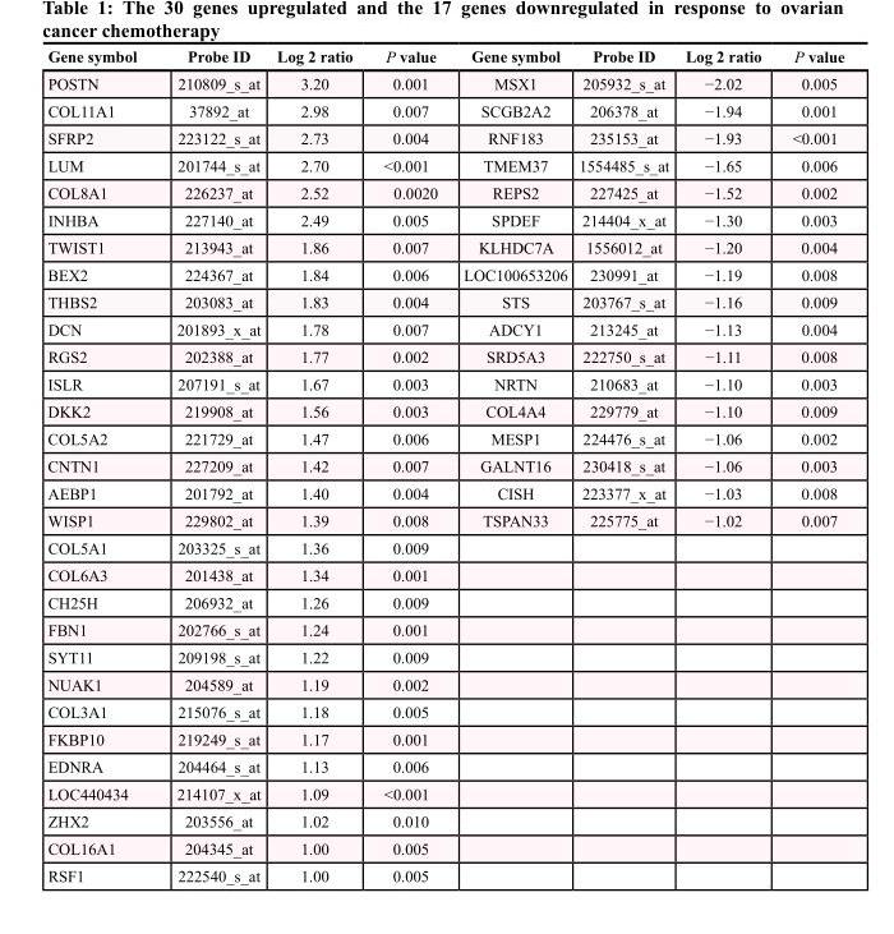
<table><thead><tr><td>Gene symbol</td><td>Probe ID</td><td>Log 2 ratio</td><td>P value</td><td>Gene symbol</td><td>Probe ID</td><td>Log 2 ratio</td><td>P value</td></tr></thead><tbody><tr><td>POSTN</td><td>210809_s_at</td><td>3.20</td><td>0.001</td><td>MSX1</td><td>205932_s_at</td><td>−2.02</td><td>0.005</td></tr><tr><td>COL11A1</td><td>37892_at</td><td>2.98</td><td>0.007</td><td>SCGB2A2</td><td>206378_at</td><td>−1.94</td><td>0.001</td></tr><tr><td>SFRP2</td><td>223122_s_at</td><td>2.73</td><td>0.004</td><td>RNF183</td><td>235153_at</td><td>−1.93</td><td>&lt;0.001</td></tr><tr><td>LUM</td><td>201744_s_at</td><td>2.70</td><td>&lt;0.001</td><td>TMEM37</td><td>1554485_s_at</td><td>−1.65</td><td>0.006</td></tr><tr><td>COL8A1</td><td>226237_at</td><td>2.52</td><td>0.0020</td><td>REPS2</td><td>227425_at</td><td>−1.52</td><td>0.002</td></tr><tr><td>INHBA</td><td>227140_at</td><td>2.49</td><td>0.005</td><td>SPDEF</td><td>214404_x_at</td><td>−1.30</td><td>0.003</td></tr><tr><td>TWIST1</td><td>213943_at</td><td>1.86</td><td>0.007</td><td>KLHDC7A</td><td>1556012_at</td><td>−1.20</td><td>0.004</td></tr><tr><td>BEX2</td><td>224367_at</td><td>1.84</td><td>0.006</td><td>LOC100653206</td><td>230991_at</td><td>−1.19</td><td>0.008</td></tr><tr><td>THBS2</td><td>203083_at</td><td>1.83</td><td>0.004</td><td>STS</td><td>203767_s_at</td><td>−1.16</td><td>0.009</td></tr><tr><td>DCN</td><td>201893_x_at</td><td>1.78</td><td>0.007</td><td>ADCY1</td><td>213245_at</td><td>−1.13</td><td>0.004</td></tr><tr><td>RGS2</td><td>202388_at</td><td>1.77</td><td>0.002</td><td>SRD5A3</td><td>222750_s_at</td><td>−1.11</td><td>0.008</td></tr><tr><td>ISLR</td><td>207191_s_at</td><td>1.67</td><td>0.003</td><td>NRTN</td><td>210683_at</td><td>−1.10</td><td>0.003</td></tr><tr><td>DKK2</td><td>219908_at</td><td>1.56</td><td>0.003</td><td>COL4A4</td><td>229779_at</td><td>−1.10</td><td>0.009</td></tr><tr><td>COL5A2</td><td>221729_at</td><td>1.47</td><td>0.006</td><td>MESP1</td><td>224476_s_at</td><td>−1.06</td><td>0.002</td></tr><tr><td>CNTN1</td><td>227209_at</td><td>1.42</td><td>0.007</td><td>GALNT16</td><td>230418_s_at</td><td>−1.06</td><td>0.003</td></tr><tr><td>AEBP1</td><td>201792_at</td><td>1.40</td><td>0.004</td><td>CISH</td><td>223377_x_at</td><td>−1.03</td><td>0.008</td></tr><tr><td>WISP1</td><td>229802_at</td><td>1.39</td><td>0.008</td><td>TSPAN33</td><td>225775_at</td><td>−1.02</td><td>0.007</td></tr><tr><td>COL5A1</td><td>203325_s_at</td><td>1.36</td><td>0.009</td><td></td><td></td><td></td><td></td></tr><tr><td>COL6A3</td><td>201438_at</td><td>1.34</td><td>0.001</td><td></td><td></td><td></td><td></td></tr><tr><td>CH25H</td><td>206932_at</td><td>1.26</td><td>0.009</td><td></td><td></td><td></td><td></td></tr><tr><td>FBN1</td><td>202766_s_at</td><td>1.24</td><td>0.001</td><td></td><td></td><td></td><td></td></tr><tr><td>SYT11</td><td>209198_s_at</td><td>1.22</td><td>0.009</td><td></td><td></td><td></td><td></td></tr><tr><td>NUAK1</td><td>204589_at</td><td>1.19</td><td>0.002</td><td></td><td></td><td></td><td></td></tr><tr><td>COL3A1</td><td>215076_s_at</td><td>1.18</td><td>0.005</td><td></td><td></td><td></td><td></td></tr><tr><td>FKBP10</td><td>219249_s_at</td><td>1.17</td><td>0.001</td><td></td><td></td><td></td><td></td></tr><tr><td>EDNRA</td><td>204464_s_at</td><td>1.13</td><td>0.006</td><td></td><td></td><td></td><td></td></tr><tr><td>LOC440434</td><td>214107_x_at</td><td>1.09</td><td>&lt;0.001</td><td></td><td></td><td></td><td></td></tr><tr><td>ZHX2</td><td>203556_at</td><td>1.02</td><td>0.010</td><td></td><td></td><td></td><td></td></tr><tr><td>COL16A1</td><td>204345_at</td><td>1.00</td><td>0.005</td><td></td><td></td><td></td><td></td></tr><tr><td>RSF1</td><td>222540_s_at</td><td>1.00</td><td>0.005</td><td></td><td></td><td></td><td></td></tr></tbody></table>